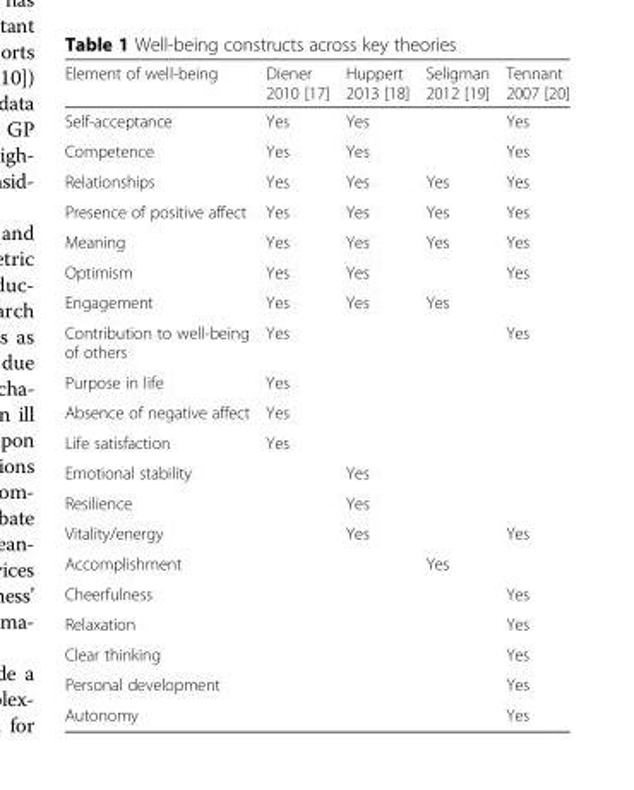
<table><thead><tr><td>Element of well-being</td><td>Diener 2010 [17]</td><td>Huppert 2013 [18]</td><td>Seligman 2012 [19]</td><td>Tennant 2007 [20]</td></tr></thead><tbody><tr><td>Self-acceptance</td><td>Yes</td><td>Yes</td><td></td><td>Yes</td></tr><tr><td>Competence</td><td>Yes</td><td>Yes</td><td></td><td>Yes</td></tr><tr><td>Relationships</td><td>Yes</td><td>Yes</td><td>Yes</td><td>Yes</td></tr><tr><td>Presence of positive affect</td><td>Yes</td><td>Yes</td><td>Yes</td><td>Yes</td></tr><tr><td>Meaning</td><td>Yes</td><td>Yes</td><td>Yes</td><td>Yes</td></tr><tr><td>Optimism</td><td>Yes</td><td>Yes</td><td></td><td>Yes</td></tr><tr><td>Engagement</td><td>Yes</td><td>Yes</td><td>Yes</td><td></td></tr><tr><td>Contribution to well-being of others</td><td>Yes</td><td></td><td></td><td>Yes</td></tr><tr><td>Purpose in life</td><td>Yes</td><td></td><td></td><td></td></tr><tr><td>Absence of negative affect</td><td>Yes</td><td></td><td></td><td></td></tr><tr><td>Life satisfaction</td><td>Yes</td><td></td><td></td><td></td></tr><tr><td>Emotional stability</td><td></td><td>Yes</td><td></td><td></td></tr><tr><td>Resilience</td><td></td><td>Yes</td><td></td><td></td></tr><tr><td>Vitality/energy</td><td></td><td>Yes</td><td></td><td>Yes</td></tr><tr><td>Accomplishment</td><td></td><td></td><td>Yes</td><td></td></tr><tr><td>Cheerfulness</td><td></td><td></td><td></td><td>Yes</td></tr><tr><td>Relaxation</td><td></td><td></td><td></td><td>Yes</td></tr><tr><td>Clear thinking</td><td></td><td></td><td></td><td>Yes</td></tr><tr><td>Personal development</td><td></td><td></td><td></td><td>Yes</td></tr><tr><td>Autonomy</td><td></td><td></td><td></td><td>Yes</td></tr></tbody></table>